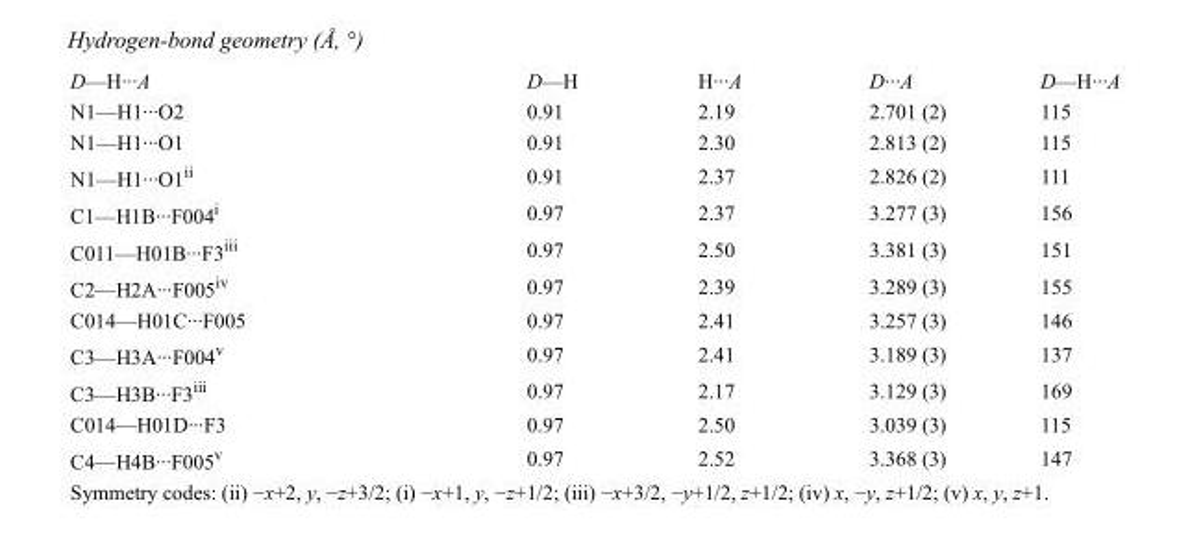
<table><tbody><tr><td>D—H···A</td><td>D—H</td><td>H···A</td><td>D···A</td><td>D—H···A</td></tr><tr><td>N1—H1···O2</td><td>0.91</td><td>2.19</td><td>2.701 (2)</td><td>115</td></tr><tr><td>N1—H1···O1</td><td>0.91</td><td>2.30</td><td>2.813 (2)</td><td>115</td></tr><tr><td>N1—H1···O1<sup>ii</sup></td><td>0.91</td><td>2.37</td><td>2.826 (2)</td><td>111</td></tr><tr><td>C1—H1B···F004<sup>i</sup></td><td>0.97</td><td>2.37</td><td>3.277 (3)</td><td>156</td></tr><tr><td>C011—H01B···F3<sup>iii</sup></td><td>0.97</td><td>2.50</td><td>3.381 (3)</td><td>151</td></tr><tr><td>C2—H2A···F005<sup>iv</sup></td><td>0.97</td><td>2.39</td><td>3.289 (3)</td><td>155</td></tr><tr><td>C014—H01C···F005</td><td>0.97</td><td>2.41</td><td>3.257 (3)</td><td>146</td></tr><tr><td>C3—H3A···F004<sup>v</sup></td><td>0.97</td><td>2.41</td><td>3.189 (3)</td><td>137</td></tr><tr><td>C3—H3B···F3<sup>iii</sup></td><td>0.97</td><td>2.17</td><td>3.129 (3)</td><td>169</td></tr><tr><td>C014—H01D···F3</td><td>0.97</td><td>2.50</td><td>3.039 (3)</td><td>115</td></tr><tr><td>C4—H4B···F005<sup>v</sup></td><td>0.97</td><td>2.52</td><td>3.368 (3)</td><td>147</td></tr></tbody></table>